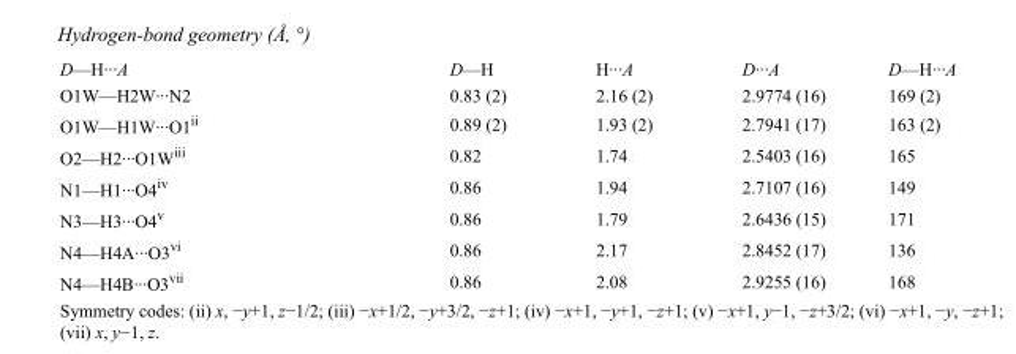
<table><tbody><tr><td>D—H···A</td><td>D—H</td><td>H···A</td><td>D···A</td><td>D—H···A</td></tr><tr><td>O1W—H2W···N2</td><td>0.83 (2)</td><td>2.16 (2)</td><td>2.9774 (16)</td><td>169 (2)</td></tr><tr><td>O1W—H1W···O1<sup>ii</sup></td><td>0.89 (2)</td><td>1.93 (2)</td><td>2.7941 (17)</td><td>163 (2)</td></tr><tr><td>O2—H2···O1W<sup>iii</sup></td><td>0.82</td><td>1.74</td><td>2.5403 (16)</td><td>165</td></tr><tr><td>N1—H1···O4<sup>iv</sup></td><td>0.86</td><td>1.94</td><td>2.7107 (16)</td><td>149</td></tr><tr><td>N3—H3···O4<sup>v</sup></td><td>0.86</td><td>1.79</td><td>2.6436 (15)</td><td>171</td></tr><tr><td>N4—H4A···O3<sup>vi</sup></td><td>0.86</td><td>2.17</td><td>2.8452 (17)</td><td>136</td></tr><tr><td>N4—H4B···O3<sup>vii</sup></td><td>0.86</td><td>2.08</td><td>2.9255 (16)</td><td>168</td></tr></tbody></table>